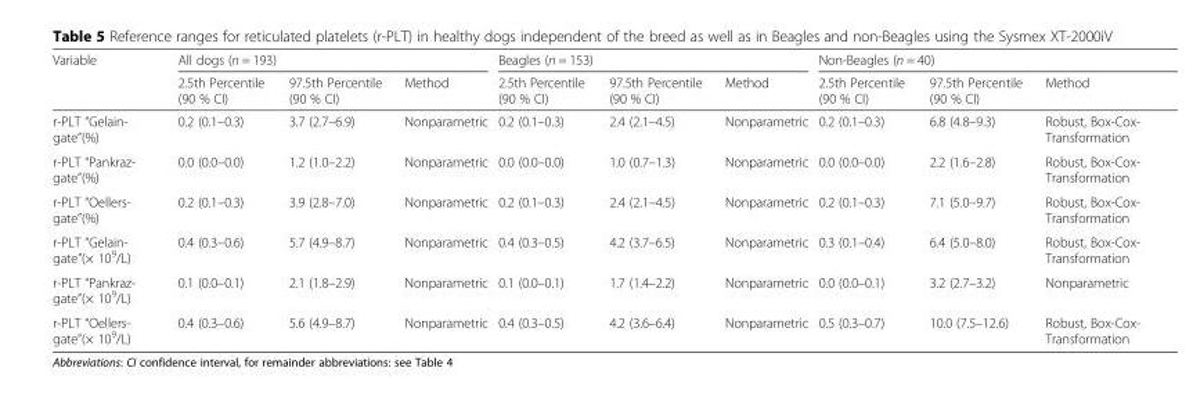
<table><thead><tr><td rowspan="2">Variable</td><td colspan="3">All dogs (n = 193)</td><td colspan="3">Beagles (n = 153)</td><td colspan="3">Non-Beagles (n = 40)</td></tr><tr><td>2.5th Percentile (90 % CI)</td><td>97.5th Percentile (90 % CI)</td><td>Method</td><td>2.5th Percentile (90 % CI)</td><td>97.5th Percentile (90 % CI)</td><td>Method</td><td>2.5th Percentile (90 % CI)</td><td>97.5th Percentile (90 % CI)</td><td>Method</td></tr></thead><tbody><tr><td>r-PLT “Gelain- gate”(%)</td><td>0.2 (0.1–0.3)</td><td>3.7 (2.7–6.9)</td><td>Nonparametric</td><td>0.2 (0.1–0.3)</td><td>2.4 (2.1–4.5)</td><td>Nonparametric</td><td>0.2 (0.1–0.3)</td><td>6.8 (4.8–9.3)</td><td>Robust, Box-Cox- Transformation</td></tr><tr><td>r-PLT “Pankraz- gate”(%)</td><td>0.0 (0.0–0.0)</td><td>1.2 (1.0–2.2)</td><td>Nonparametric</td><td>0.0 (0.0–0.0)</td><td>1.0 (0.7–1.3)</td><td>Nonparametric</td><td>0.0 (0.0–0.0)</td><td>2.2 (1.6–2.8)</td><td>Robust, Box-Cox- Transformation</td></tr><tr><td>r-PLT “Oellers- gate”(%)</td><td>0.2 (0.1–0.3)</td><td>3.9 (2.8–7.0)</td><td>Nonparametric</td><td>0.2 (0.1–0.3)</td><td>2.4 (2.1–4.5)</td><td>Nonparametric</td><td>0.2 (0.1–0.3)</td><td>7.1 (5.0–9.7)</td><td>Robust, Box-Cox- Transformation</td></tr><tr><td>r-PLT “Gelain- gate”(× 10<sup>9</sup>/L)</td><td>0.4 (0.3–0.6)</td><td>5.7 (4.9–8.7)</td><td>Nonparametric</td><td>0.4 (0.3–0.5)</td><td>4.2 (3.7–6.5)</td><td>Nonparametric</td><td>0.3 (0.1–0.4)</td><td>6.4 (5.0–8.0)</td><td>Robust, Box-Cox- Transformation</td></tr><tr><td>r-PLT “Pankraz- gate”(× 10<sup>9</sup>/L)</td><td>0.1 (0.0–0.1)</td><td>2.1 (1.8–2.9)</td><td>Nonparametric</td><td>0.1 (0.0–0.1)</td><td>1.7 (1.4–2.2)</td><td>Nonparametric</td><td>0.0 (0.0–0.1)</td><td>3.2 (2.7–3.2)</td><td>Nonparametric</td></tr><tr><td>r-PLT “Oellers- gate”(× 10<sup>9</sup>/L)</td><td>0.4 (0.3–0.6)</td><td>5.6 (4.9–8.7)</td><td>Nonparametric</td><td>0.4 (0.3–0.5)</td><td>4.2 (3.6–6.4)</td><td>Nonparametric</td><td>0.5 (0.3–0.7)</td><td>10.0 (7.5–12.6)</td><td>Robust, Box-Cox- Transformation</td></tr></tbody></table>